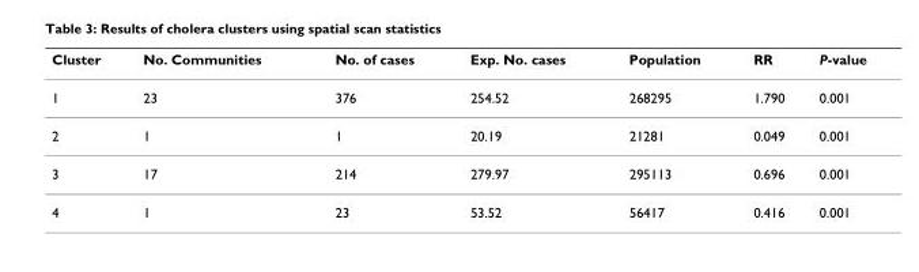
<table><thead><tr><td>Cluster</td><td>No. Communities</td><td>No. of cases</td><td>Exp. No. cases</td><td>Population</td><td>RR</td><td>P-value</td></tr></thead><tbody><tr><td>1</td><td>23</td><td>376</td><td>254.52</td><td>268295</td><td>1.790</td><td>0.001</td></tr><tr><td>2</td><td>1</td><td>1</td><td>20.19</td><td>21281</td><td>0.049</td><td>0.001</td></tr><tr><td>3</td><td>17</td><td>214</td><td>279.97</td><td>295113</td><td>0.696</td><td>0.001</td></tr><tr><td>4</td><td>1</td><td>23</td><td>53.52</td><td>56417</td><td>0.416</td><td>0.001</td></tr></tbody></table>